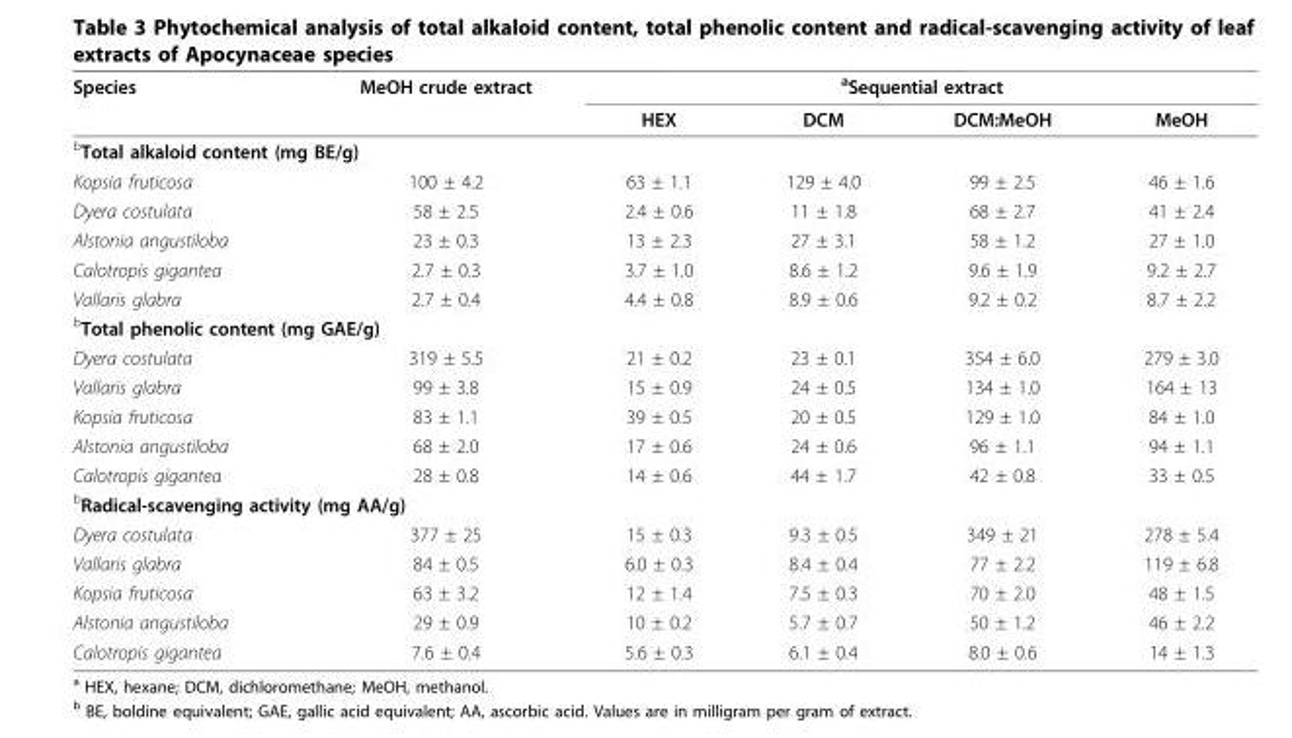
<table><thead><tr><td rowspan="2">Species</td><td rowspan="2">MeOH crude extract</td><td colspan="4"><sup>a</sup>Sequential extract</td></tr><tr><td>HEX</td><td>DCM</td><td>DCM:MeOH</td><td>MeOH</td></tr></thead><tbody><tr><td colspan="6"><sup>b</sup>Total alkaloid content (mg BE/g)</td></tr><tr><td>Kopsia fruticosa</td><td>100 ± 4.2</td><td>63 ± 1.1</td><td>129 ± 4.0</td><td>99 ± 2.5</td><td>46 ± 1.6</td></tr><tr><td>Dyera costulata</td><td>58 ± 2.5</td><td>2.4 ± 0.6</td><td>11 ± 1.8</td><td>68 ± 2.7</td><td>41 ± 2.4</td></tr><tr><td>Alstonia angustiloba</td><td>23 ± 0.3</td><td>13 ± 2.3</td><td>27 ± 3.1</td><td>58 ± 1.2</td><td>27 ± 1.0</td></tr><tr><td>Calotropis gigantea</td><td>2.7 ± 0.3</td><td>3.7 ± 1.0</td><td>8.6 ± 1.2</td><td>9.6 ± 1.9</td><td>9.2 ± 2.7</td></tr><tr><td>Vallaris glabra</td><td>2.7 ± 0.4</td><td>4.4 ± 0.8</td><td>8.9 ± 0.6</td><td>9.2 ± 0.2</td><td>8.7 ± 2.2</td></tr><tr><td colspan="6"><sup>b</sup>Total phenolic content (mg GAE/g)</td></tr><tr><td>Dyera costulata</td><td>319 ± 5.5</td><td>21 ± 0.2</td><td>23 ± 0.1</td><td>354 ± 6.0</td><td>279 ± 3.0</td></tr><tr><td>Vallaris glabra</td><td>99 ± 3.8</td><td>15 ± 0.9</td><td>24 ± 0.5</td><td>134 ± 1.0</td><td>164 ± 13</td></tr><tr><td>Kopsia fruticosa</td><td>83 ± 1.1</td><td>39 ± 0.5</td><td>20 ± 0.5</td><td>129 ± 1.0</td><td>84 ± 1.0</td></tr><tr><td>Alstonia angustiloba</td><td>68 ± 2.0</td><td>17 ± 0.6</td><td>24 ± 0.6</td><td>96 ± 1.1</td><td>94 ± 1.1</td></tr><tr><td>Calotropis gigantea</td><td>28 ± 0.8</td><td>14 ± 0.6</td><td>44 ± 1.7</td><td>42 ± 0.8</td><td>33 ± 0.5</td></tr><tr><td colspan="6"><sup>b</sup>Radical-scavenging activity (mg AA/g)</td></tr><tr><td>Dyera costulata</td><td>377 ± 25</td><td>15 ± 0.3</td><td>9.3 ± 0.5</td><td>349 ± 21</td><td>278 ± 5.4</td></tr><tr><td>Vallaris glabra</td><td>84 ± 0.5</td><td>6.0 ± 0.3</td><td>8.4 ± 0.4</td><td>77 ± 2.2</td><td>119 ± 6.8</td></tr><tr><td>Kopsia fruticosa</td><td>63 ± 3.2</td><td>12 ± 1.4</td><td>7.5 ± 0.3</td><td>70 ± 2.0</td><td>48 ± 1.5</td></tr><tr><td>Alstonia angustiloba</td><td>29 ± 0.9</td><td>10 ± 0.2</td><td>5.7 ± 0.7</td><td>50 ± 1.2</td><td>46 ± 2.2</td></tr><tr><td>Calotropis gigantea</td><td>7.6 ± 0.4</td><td>5.6 ± 0.3</td><td>6.1 ± 0.4</td><td>8.0 ± 0.6</td><td>14 ± 1.3</td></tr></tbody></table>